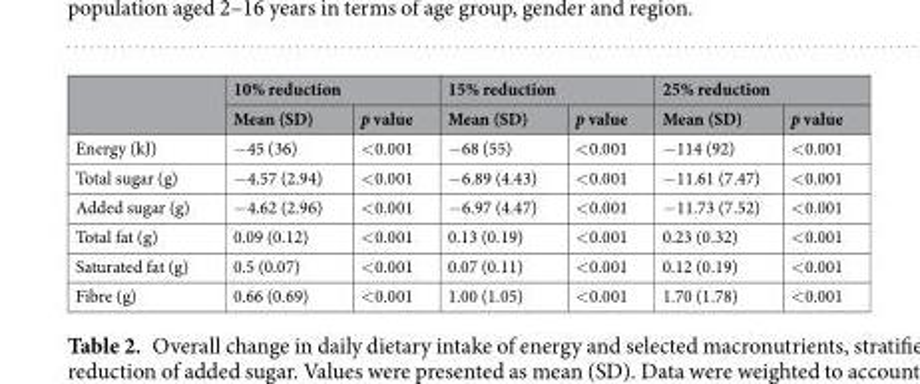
<table><thead><tr><td rowspan="2"></td><td colspan="2">10% reduction</td><td colspan="2">15% reduction</td><td colspan="2">25% reduction</td></tr><tr><td>Mean (SD)</td><td>p value</td><td>Mean (SD)</td><td>p value</td><td>Mean (SD)</td><td>p value</td></tr></thead><tbody><tr><td>Energy (kJ)</td><td>−45 (36)</td><td>&lt;0.001</td><td>−68 (55)</td><td>&lt;0.001</td><td>−114 (92)</td><td>&lt;0.001</td></tr><tr><td>Total sugar (g)</td><td>−4.57 (2.94)</td><td>&lt;0.001</td><td>−6.89 (4.43)</td><td>&lt;0.001</td><td>−11.61 (7.47)</td><td>&lt;0.001</td></tr><tr><td>Added sugar (g)</td><td>−4.62 (2.96)</td><td>&lt;0.001</td><td>−6.97 (4.47)</td><td>&lt;0.001</td><td>−11.73 (7.52)</td><td>&lt;0.001</td></tr><tr><td>Total fat (g)</td><td>0.09 (0.12)</td><td>&lt;0.001</td><td>0.13 (0.19)</td><td>&lt;0.001</td><td>0.23 (0.32)</td><td>&lt;0.001</td></tr><tr><td>Saturated fat (g)</td><td>0.5 (0.07)</td><td>&lt;0.001</td><td>0.07 (0.11)</td><td>&lt;0.001</td><td>0.12 (0.19)</td><td>&lt;0.001</td></tr><tr><td>Fibre (g)</td><td>0.66 (0.69)</td><td>&lt;0.001</td><td>1.00 (1.05)</td><td>&lt;0.001</td><td>1.70 (1.78)</td><td>&lt;0.001</td></tr></tbody></table>